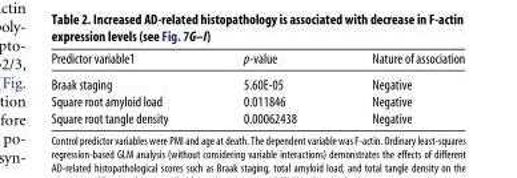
<table><thead><tr><td>Predictor variable1</td><td>p-value</td><td>Nature of association</td></tr></thead><tbody><tr><td>Braak staging</td><td>5.60E-05</td><td>Negative</td></tr><tr><td>Square root amyloid load</td><td>0.011846</td><td>Negative</td></tr><tr><td>Square root tangle density</td><td>0.00062438</td><td>Negative</td></tr></tbody></table>